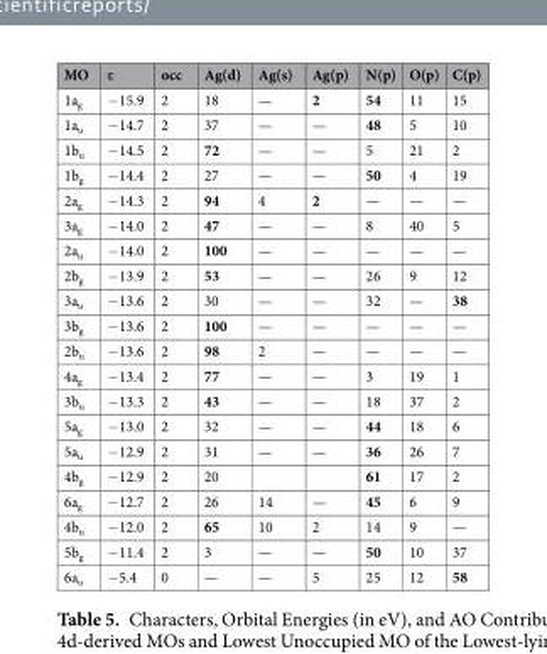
<table><thead><tr><td>MO</td><td>ε</td><td>occ</td><td>Ag(d)</td><td>Ag(s)</td><td>Ag(p)</td><td>N(p)</td><td>O(p)</td><td>C(p)</td></tr></thead><tbody><tr><td>1a<sub>g</sub></td><td>−15.9</td><td>2</td><td>18</td><td>—</td><td>2</td><td>54</td><td>11</td><td>15</td></tr><tr><td>1a<sub>u</sub></td><td>−14.7</td><td>2</td><td>37</td><td>—</td><td>—</td><td>48</td><td>5</td><td>10</td></tr><tr><td>1b<sub>u</sub></td><td>−14.5</td><td>2</td><td>72</td><td>—</td><td>—</td><td>5</td><td>21</td><td>2</td></tr><tr><td>1b<sub>g</sub></td><td>−14.4</td><td>2</td><td>27</td><td>—</td><td>—</td><td>50</td><td>4</td><td>19</td></tr><tr><td>2a<sub>g</sub></td><td>−14.3</td><td>2</td><td>94</td><td>4</td><td>2</td><td>—</td><td>—</td><td>—</td></tr><tr><td>3a<sub>g</sub></td><td>−14.0</td><td>2</td><td>47</td><td>—</td><td>—</td><td>8</td><td>40</td><td>5</td></tr><tr><td>2a<sub>u</sub></td><td>−14.0</td><td>2</td><td>100</td><td>—</td><td>—</td><td>—</td><td>—</td><td>—</td></tr><tr><td>2b<sub>g</sub></td><td>−13.9</td><td>2</td><td>53</td><td>—</td><td>—</td><td>26</td><td>9</td><td>12</td></tr><tr><td>3a<sub>u</sub></td><td>−13.6</td><td>2</td><td>30</td><td>—</td><td>—</td><td>32</td><td>—</td><td>38</td></tr><tr><td>3b<sub>g</sub></td><td>−13.6</td><td>2</td><td>100</td><td>—</td><td>—</td><td>—</td><td>—</td><td>—</td></tr><tr><td>2b<sub>u</sub></td><td>−13.6</td><td>2</td><td>98</td><td>2</td><td>—</td><td>—</td><td>—</td><td>—</td></tr><tr><td>4a<sub>g</sub></td><td>−13.4</td><td>2</td><td>77</td><td>—</td><td>—</td><td>3</td><td>19</td><td>1</td></tr><tr><td>3b<sub>u</sub></td><td>−13.3</td><td>2</td><td>43</td><td>—</td><td>—</td><td>18</td><td>37</td><td>2</td></tr><tr><td>5a<sub>g</sub></td><td>−13.0</td><td>2</td><td>32</td><td>—</td><td>—</td><td>44</td><td>18</td><td>6</td></tr><tr><td>5a<sub>u</sub></td><td>−12.9</td><td>2</td><td>31</td><td>—</td><td>—</td><td>36</td><td>26</td><td>7</td></tr><tr><td>4b<sub>g</sub></td><td>−12.9</td><td>2</td><td>20</td><td></td><td></td><td>61</td><td>17</td><td>2</td></tr><tr><td>6a<sub>g</sub></td><td>−12.7</td><td>2</td><td>26</td><td>14</td><td>—</td><td>45</td><td>6</td><td>9</td></tr><tr><td>4b<sub>u</sub></td><td>−12.0</td><td>2</td><td>65</td><td>10</td><td>2</td><td>14</td><td>9</td><td>—</td></tr><tr><td>5b<sub>g</sub></td><td>−11.4</td><td>2</td><td>3</td><td>—</td><td>—</td><td>50</td><td>10</td><td>37</td></tr><tr><td>6a<sub>u</sub></td><td>−5.4</td><td>0</td><td>—</td><td>—</td><td>5</td><td>25</td><td>12</td><td>58</td></tr></tbody></table>